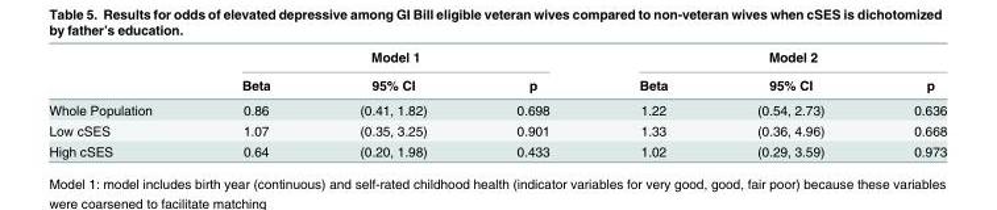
<table><thead><tr><td rowspan="2"></td><td colspan="3">Model 1</td><td colspan="3">Model 2</td></tr><tr><td>Beta</td><td>95% CI</td><td>p</td><td>Beta</td><td>95% CI</td><td>p</td></tr></thead><tbody><tr><td>Whole Population</td><td>0.86</td><td>(0.41, 1.82)</td><td>0.698</td><td>1.22</td><td>(0.54, 2.73)</td><td>0.636</td></tr><tr><td>Low cSES</td><td>1.07</td><td>(0.35, 3.25)</td><td>0.901</td><td>1.33</td><td>(0.36, 4.96)</td><td>0.668</td></tr><tr><td>High cSES</td><td>0.64</td><td>(0.20, 1.98)</td><td>0.433</td><td>1.02</td><td>(0.29, 3.59)</td><td>0.973</td></tr></tbody></table>